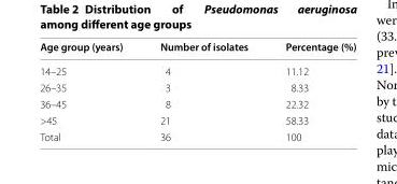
<table><thead><tr><td>Age group (years)</td><td>Number of isolates</td><td>Percentage (%)</td></tr></thead><tbody><tr><td>14–25</td><td>4</td><td>11.12</td></tr><tr><td>26–35</td><td>3</td><td>8.33</td></tr><tr><td>36–45</td><td>8</td><td>22.32</td></tr><tr><td>&gt;45</td><td>21</td><td>58.33</td></tr><tr><td>Total</td><td>36</td><td>100</td></tr></tbody></table>